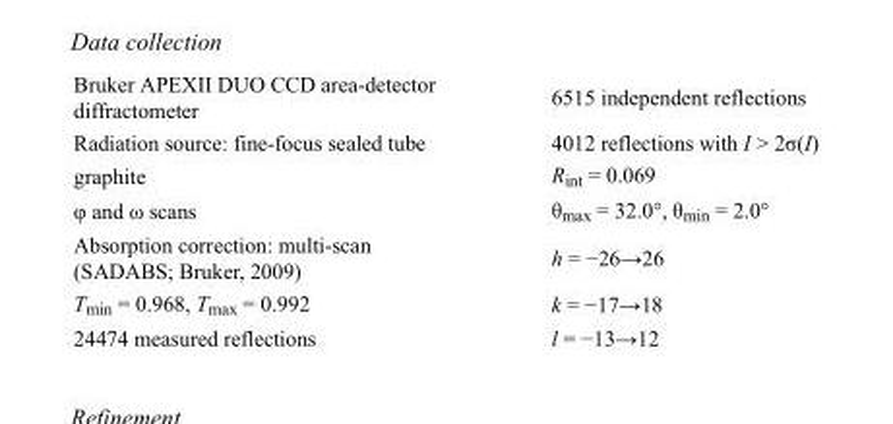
<table><tbody><tr><td>Bruker APEXII DUO CCD area-detector diffractometer</td><td>6515 independent reflections</td></tr><tr><td>Radiation source: fine-focus sealed tube</td><td>4012 reflections with I &gt; 2σ(I)</td></tr><tr><td>graphite</td><td>R<sub>int</sub> = 0.069</td></tr><tr><td>φ and ω scans</td><td>θ<sub>max</sub> = 32.0°, θ<sub>min</sub> = 2.0°</td></tr><tr><td>Absorption correction: multi-scan (SADABS; Bruker, 2009)</td><td>h = −26→26</td></tr><tr><td>T<sub>min</sub> = 0.968, T<sub>max</sub> = 0.992</td><td>k = −17→18</td></tr><tr><td>24474 measured reflections</td><td>l = −13→12</td></tr></tbody></table>